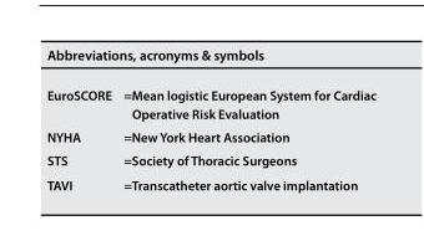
<table><thead><tr><td colspan="2">Abbreviations, acronyms &amp; symbols</td></tr><tr><td>EuroSCORE</td><td>=Mean logistic European System for Cardiac Operative Risk Evaluation</td></tr></thead><tbody><tr><td>NYHA</td><td>=New York Heart Association</td></tr><tr><td>STS</td><td>=Society of Thoracic Surgeons</td></tr><tr><td>TAVI</td><td>=Transcatheter aortic valve implantation</td></tr></tbody></table>